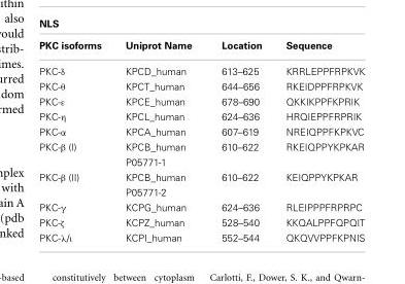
<table><thead><tr><td>PKC isoforms</td><td>Uniprot Name</td><td>Location</td><td>Sequence</td></tr></thead><tbody><tr><td>PKC-δ</td><td>KPCD_human</td><td>613–625</td><td>KRRLEPPFRPKVK</td></tr><tr><td>PKC-θ</td><td>KPCT_human</td><td>644–656</td><td>RKEIDPPFRPKVK</td></tr><tr><td>PKC-ε</td><td>KPCE_human</td><td>678–690</td><td>QKKIKPPFKPRIK</td></tr><tr><td>PKC-η</td><td>KPCL_human</td><td>624–636</td><td>HRQIEPPFRPRIK</td></tr><tr><td>PKC-α</td><td>KPCA_human</td><td>607–619</td><td>NREIQPPFKPKVC</td></tr><tr><td>PKC-β (I)</td><td>KPCB_human P05771-1</td><td>610–622</td><td>RKEIQPPYKPKAR</td></tr><tr><td>PKC-β (II)</td><td>KPCB_human P05771-2</td><td>610–622</td><td>KEIQPPYKPKAR</td></tr><tr><td>PKC-γ</td><td>KCPG_human</td><td>624–636</td><td>RLEIPPPFRPRPC</td></tr><tr><td>PKC-ζ</td><td>KCPZ_human</td><td>528–540</td><td>KKQALPPFQPQIT</td></tr><tr><td>PKC-λ/ι</td><td>KCPI_human</td><td>552–544</td><td>QKQVVPPFKPNIS</td></tr></tbody></table>